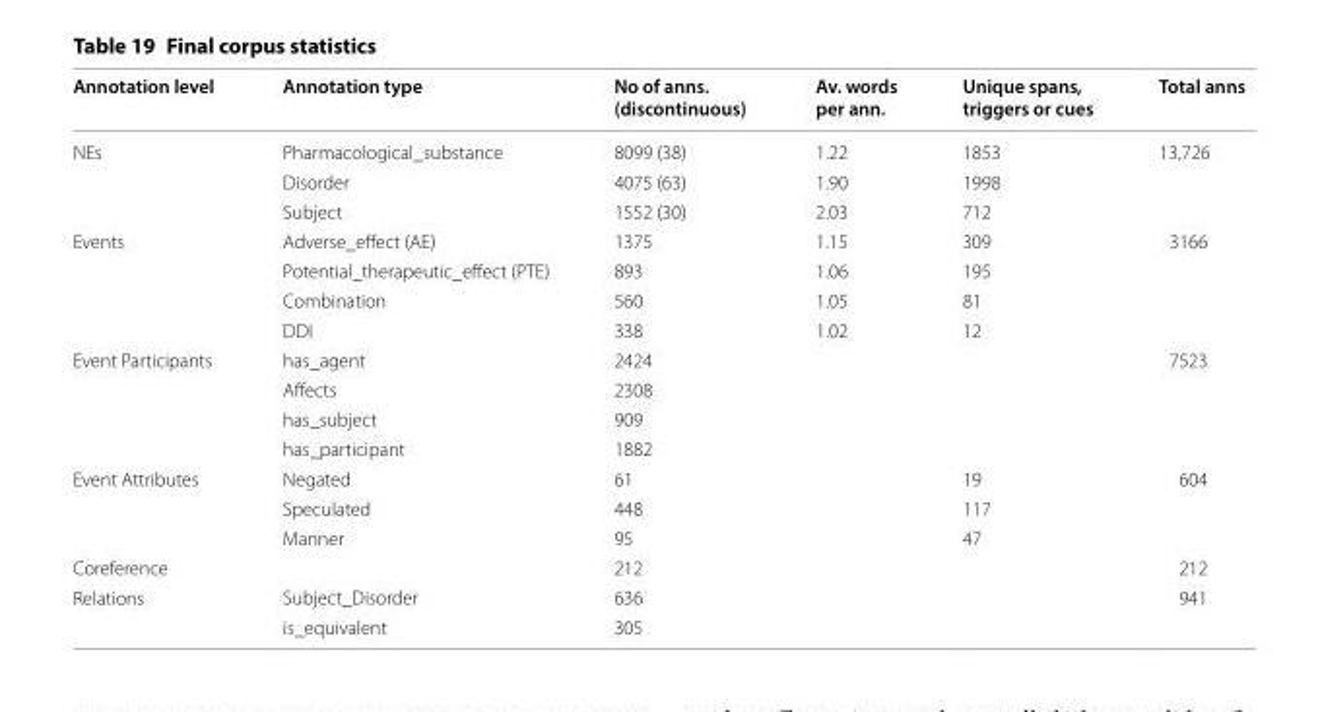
<table><thead><tr><td>Annotation level</td><td>Annotation type</td><td>No of anns. (discontinuous)</td><td>Av. words per ann.</td><td>Unique spans, triggers or cues</td><td>Total anns</td></tr></thead><tbody><tr><td rowspan="3">NEs</td><td>Pharmacological_substance</td><td>8099 (38)</td><td>1.22</td><td>1853</td><td rowspan="3">13,726</td></tr><tr><td>Disorder</td><td>4075 (63)</td><td>1.90</td><td>1998</td></tr><tr><td>Subject</td><td>1552 (30)</td><td>2.03</td><td>712</td></tr><tr><td rowspan="4">Events</td><td>Adverse_effect (AE)</td><td>1375</td><td>1.15</td><td>309</td><td rowspan="4">3166</td></tr><tr><td>Potential_therapeutic_effect (PTE)</td><td>893</td><td>1.06</td><td>195</td></tr><tr><td>Combination</td><td>560</td><td>1.05</td><td>81</td></tr><tr><td>DDI</td><td>338</td><td>1.02</td><td>12</td></tr><tr><td rowspan="4">Event Participants</td><td>has_agent</td><td>2424</td><td rowspan="10"></td><td rowspan="4"></td><td rowspan="4">7523</td></tr><tr><td>Affects</td><td>2308</td></tr><tr><td>has_subject</td><td>909</td></tr><tr><td>has_participant</td><td>1882</td></tr><tr><td rowspan="3">Event Attributes</td><td>Negated</td><td>61</td><td>19</td><td rowspan="3">604</td></tr><tr><td>Speculated</td><td>448</td><td>117</td></tr><tr><td>Manner</td><td>95</td><td>47</td></tr><tr><td>Coreference</td><td></td><td>212</td><td rowspan="3"></td><td>212</td></tr><tr><td rowspan="2">Relations</td><td>Subject_Disorder</td><td>636</td><td rowspan="2">941</td></tr><tr><td>is_equivalent</td><td>305</td></tr></tbody></table>